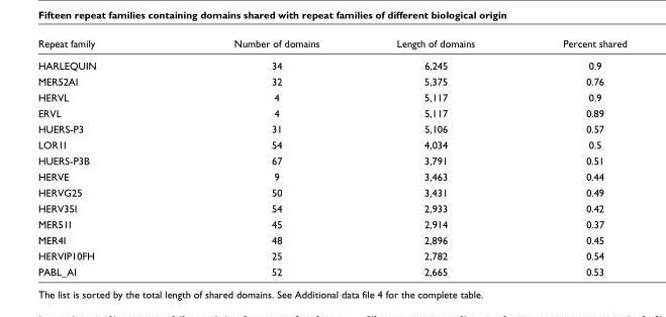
<table><thead><tr><td>Repeat family</td><td>Number of domains</td><td>Length of domains</td><td>Percent shared</td></tr></thead><tbody><tr><td>HARLEQUIN</td><td>34</td><td>6,245</td><td>0.9</td></tr><tr><td>MER52AI</td><td>32</td><td>5,375</td><td>0.76</td></tr><tr><td>HERVL</td><td>4</td><td>5,117</td><td>0.9</td></tr><tr><td>ERVL</td><td>4</td><td>5,117</td><td>0.89</td></tr><tr><td>HUERS-P3</td><td>31</td><td>5,106</td><td>0.57</td></tr><tr><td>LOR1I</td><td>54</td><td>4,034</td><td>0.5</td></tr><tr><td>HUERS-P3B</td><td>67</td><td>3,791</td><td>0.51</td></tr><tr><td>HERVE</td><td>9</td><td>3,463</td><td>0.44</td></tr><tr><td>HERVG25</td><td>50</td><td>3,431</td><td>0.49</td></tr><tr><td>HERV35I</td><td>54</td><td>2,933</td><td>0.42</td></tr><tr><td>MER51I</td><td>45</td><td>2,914</td><td>0.37</td></tr><tr><td>MER4I</td><td>48</td><td>2,896</td><td>0.45</td></tr><tr><td>HERVIP10FH</td><td>25</td><td>2,782</td><td>0.54</td></tr><tr><td>PABL_AI</td><td>52</td><td>2,665</td><td>0.53</td></tr></tbody></table>